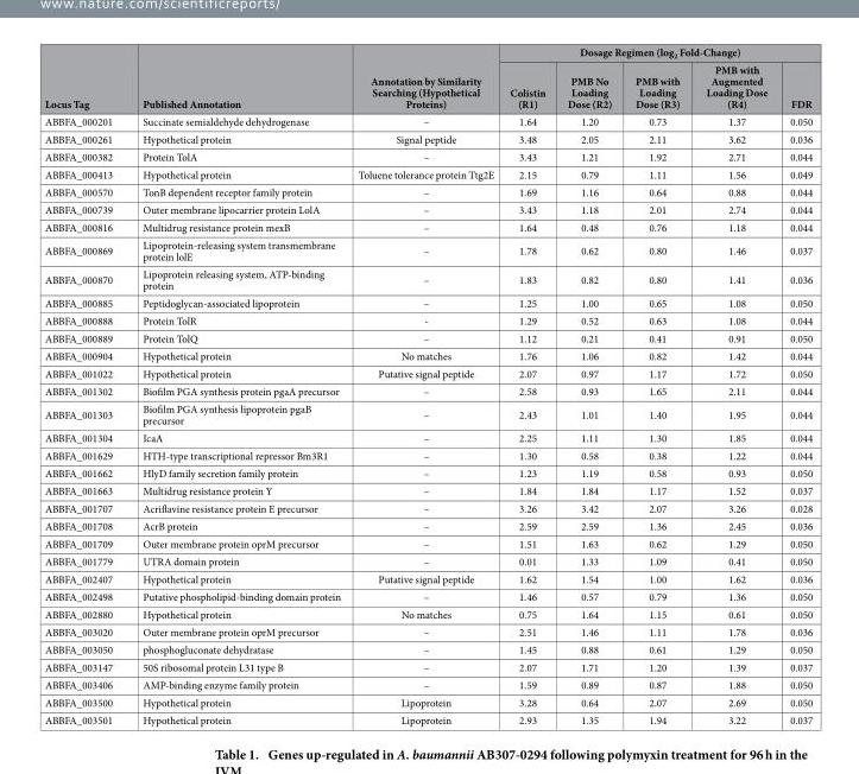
<table><thead><tr><td rowspan="2">Locus Tag</td><td rowspan="2">Published Annotation</td><td rowspan="2">Annotation by Similarity Searching (Hypothetical Proteins)</td><td colspan="5">Dosage Regimen (log<sub>2</sub> Fold-Change)</td></tr><tr><td>Colistin (R1)</td><td>PMB No Loading Dose (R2)</td><td>PMB with Loading Dose (R3)</td><td>PMB with Augmented Loading Dose (R4)</td><td>FDR</td></tr></thead><tbody><tr><td>ABBFA_000201</td><td>Succinate semialdehyde dehydrogenase</td><td>–</td><td>1.64</td><td>1.20</td><td>0.73</td><td>1.37</td><td>0.050</td></tr><tr><td>ABBFA_000261</td><td>Hypothetical protein</td><td>Signal peptide</td><td>3.48</td><td>2.05</td><td>2.11</td><td>3.62</td><td>0.036</td></tr><tr><td>ABBFA_000382</td><td>Protein TolA</td><td>–</td><td>3.43</td><td>1.21</td><td>1.92</td><td>2.71</td><td>0.044</td></tr><tr><td>ABBFA_000413</td><td>Hypothetical protein</td><td>Toluene tolerance protein Ttg2E</td><td>2.15</td><td>0.79</td><td>1.11</td><td>1.56</td><td>0.049</td></tr><tr><td>ABBFA_000570</td><td>TonB dependent receptor family protein</td><td>–</td><td>1.69</td><td>1.16</td><td>0.64</td><td>0.88</td><td>0.044</td></tr><tr><td>ABBFA_000739</td><td>Outer membrane lipocarrier protein LolA</td><td>–</td><td>3.43</td><td>1.18</td><td>2.01</td><td>2.74</td><td>0.044</td></tr><tr><td>ABBFA_000816</td><td>Multidrug resistance protein mexB</td><td>–</td><td>1.64</td><td>0.48</td><td>0.76</td><td>1.18</td><td>0.044</td></tr><tr><td>ABBFA_000869</td><td>Lipoprotein-releasing system transmembrane protein lolE</td><td>–</td><td>1.78</td><td>0.62</td><td>0.80</td><td>1.46</td><td>0.037</td></tr><tr><td>ABBFA_000870</td><td>Lipoprotein releasing system, ATP-binding protein</td><td>–</td><td>1.83</td><td>0.82</td><td>0.80</td><td>1.41</td><td>0.036</td></tr><tr><td>ABBFA_000885</td><td>Peptidoglycan-associated lipoprotein</td><td>–</td><td>1.25</td><td>1.00</td><td>0.65</td><td>1.08</td><td>0.050</td></tr><tr><td>ABBFA_000888</td><td>Protein TolR</td><td>-</td><td>1.29</td><td>0.52</td><td>0.63</td><td>1.08</td><td>0.044</td></tr><tr><td>ABBFA_000889</td><td>Protein TolQ</td><td>–</td><td>1.12</td><td>0.21</td><td>0.41</td><td>0.91</td><td>0.050</td></tr><tr><td>ABBFA_000904</td><td>Hypothetical protein</td><td>No matches</td><td>1.76</td><td>1.06</td><td>0.82</td><td>1.42</td><td>0.044</td></tr><tr><td>ABBFA_001022</td><td>Hypothetical protein</td><td>Putative signal peptide</td><td>2.07</td><td>0.97</td><td>1.17</td><td>1.72</td><td>0.050</td></tr><tr><td>ABBFA_001302</td><td>Biofilm PGA synthesis protein pgaA precursor</td><td>–</td><td>2.58</td><td>0.93</td><td>1.65</td><td>2.11</td><td>0.044</td></tr><tr><td>ABBFA_001303</td><td>Biofilm PGA synthesis lipoprotein pgaB precursor</td><td>–</td><td>2.43</td><td>1.01</td><td>1.40</td><td>1.95</td><td>0.044</td></tr><tr><td>ABBFA_001304</td><td>IcaA</td><td>–</td><td>2.25</td><td>1.11</td><td>1.30</td><td>1.85</td><td>0.044</td></tr><tr><td>ABBFA_001629</td><td>HTH-type transcriptional repressor Bm3R1</td><td>–</td><td>1.30</td><td>0.58</td><td>0.38</td><td>1.22</td><td>0.044</td></tr><tr><td>ABBFA_001662</td><td>HlyD family secretion family protein</td><td>–</td><td>1.23</td><td>1.19</td><td>0.58</td><td>0.93</td><td>0.050</td></tr><tr><td>ABBFA_001663</td><td>Multidrug resistance protein Y</td><td>–</td><td>1.84</td><td>1.84</td><td>1.17</td><td>1.52</td><td>0.037</td></tr><tr><td>ABBFA_001707</td><td>Acriflavine resistance protein E precursor</td><td>–</td><td>3.26</td><td>3.42</td><td>2.07</td><td>3.26</td><td>0.028</td></tr><tr><td>ABBFA_001708</td><td>AcrB protein</td><td>–</td><td>2.59</td><td>2.59</td><td>1.36</td><td>2.45</td><td>0.036</td></tr><tr><td>ABBFA_001709</td><td>Outer membrane protein oprM precursor</td><td>–</td><td>1.51</td><td>1.63</td><td>0.62</td><td>1.29</td><td>0.050</td></tr><tr><td>ABBFA_001779</td><td>UTRA domain protein</td><td>–</td><td>0.01</td><td>1.33</td><td>1.09</td><td>0.41</td><td>0.050</td></tr><tr><td>ABBFA_002407</td><td>Hypothetical protein</td><td>Putative signal peptide</td><td>1.62</td><td>1.54</td><td>1.00</td><td>1.62</td><td>0.036</td></tr><tr><td>ABBFA_002498</td><td>Putative phospholipid-binding domain protein</td><td>–</td><td>1.46</td><td>0.57</td><td>0.79</td><td>1.36</td><td>0.050</td></tr><tr><td>ABBFA_002880</td><td>Hypothetical protein</td><td>No matches</td><td>0.75</td><td>1.64</td><td>1.15</td><td>0.61</td><td>0.050</td></tr><tr><td>ABBFA_003020</td><td>Outer membrane protein oprM precursor</td><td>–</td><td>2.51</td><td>1.46</td><td>1.11</td><td>1.78</td><td>0.036</td></tr><tr><td>ABBFA_003050</td><td>phosphogluconate dehydratase</td><td>–</td><td>1.45</td><td>0.88</td><td>0.61</td><td>1.29</td><td>0.050</td></tr><tr><td>ABBFA_003147</td><td>50S ribosomal protein L31 type B</td><td>–</td><td>2.07</td><td>1.71</td><td>1.20</td><td>1.39</td><td>0.037</td></tr><tr><td>ABBFA_003406</td><td>AMP-binding enzyme family protein</td><td>–</td><td>1.59</td><td>0.89</td><td>0.87</td><td>1.88</td><td>0.050</td></tr><tr><td>ABBFA_003500</td><td>Hypothetical protein</td><td>Lipoprotein</td><td>3.28</td><td>0.64</td><td>2.07</td><td>2.69</td><td>0.050</td></tr><tr><td>ABBFA_003501</td><td>Hypothetical protein</td><td>Lipoprotein</td><td>2.93</td><td>1.35</td><td>1.94</td><td>3.22</td><td>0.037</td></tr></tbody></table>